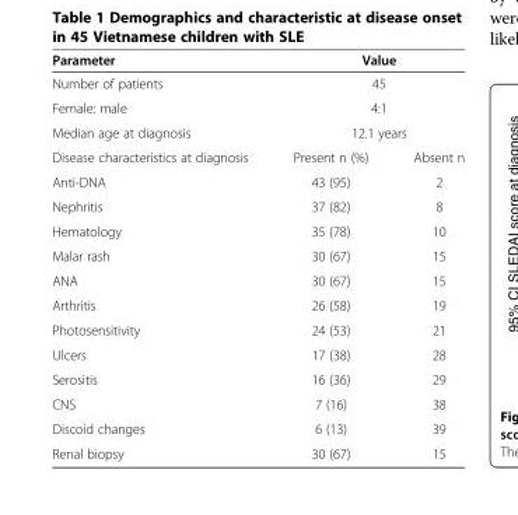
<table><thead><tr><td>Parameter</td><td colspan="2">Value</td></tr></thead><tbody><tr><td>Number of patients</td><td colspan="2">45</td></tr><tr><td>Female: male</td><td colspan="2">4:1</td></tr><tr><td>Median age at diagnosis</td><td colspan="2">12.1 years</td></tr><tr><td>Disease characteristics at diagnosis</td><td>Present n (%)</td><td>Absent n</td></tr><tr><td>Anti-DNA</td><td>43 (95)</td><td>2</td></tr><tr><td>Nephritis</td><td>37 (82)</td><td>8</td></tr><tr><td>Hematology</td><td>35 (78)</td><td>10</td></tr><tr><td>Malar rash</td><td>30 (67)</td><td>15</td></tr><tr><td>ANA</td><td>30 (67)</td><td>15</td></tr><tr><td>Arthritis</td><td>26 (58)</td><td>19</td></tr><tr><td>Photosensitivity</td><td>24 (53)</td><td>21</td></tr><tr><td>Ulcers</td><td>17 (38)</td><td>28</td></tr><tr><td>Serositis</td><td>16 (36)</td><td>29</td></tr><tr><td>CNS</td><td>7 (16)</td><td>38</td></tr><tr><td>Discoid changes</td><td>6 (13)</td><td>39</td></tr><tr><td>Renal biopsy</td><td>30 (67)</td><td>15</td></tr></tbody></table>